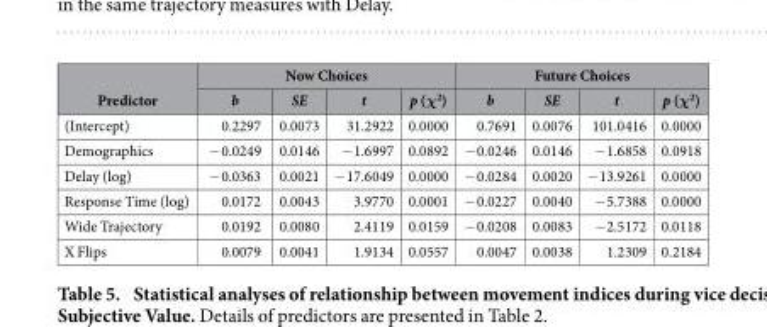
<table><thead><tr><td rowspan="2">Predictor</td><td colspan="4">Now Choices</td><td colspan="4">Future Choices</td></tr><tr><td>b</td><td>SE</td><td>t</td><td>p (χ<sup>2</sup>)</td><td>b</td><td>SE</td><td>t</td><td>p (χ<sup>2</sup>)</td></tr></thead><tbody><tr><td>(Intercept)</td><td>0.2297</td><td>0.0073</td><td>31.2922</td><td>0.0000</td><td>0.7691</td><td>0.0076</td><td>101.0416</td><td>0.0000</td></tr><tr><td>Demographics</td><td>− 0.0249</td><td>0.0146</td><td>− 1.6997</td><td>0.0892</td><td>− 0.0246</td><td>0.0146</td><td>− 1.6858</td><td>0.0918</td></tr><tr><td>Delay (log)</td><td>− 0.0363</td><td>0.0021</td><td>− 17.6049</td><td>0.0000</td><td>− 0.0284</td><td>0.0020</td><td>− 13.9261</td><td>0.0000</td></tr><tr><td>Response Time (log)</td><td>0.0172</td><td>0.0043</td><td>3.9770</td><td>0.0001</td><td>− 0.0227</td><td>0.0040</td><td>− 5.7388</td><td>0.0000</td></tr><tr><td>Wide Trajectory</td><td>0.0192</td><td>0.0080</td><td>2.4119</td><td>0.0159</td><td>− 0.0208</td><td>0.0083</td><td>− 2.5172</td><td>0.0118</td></tr><tr><td>X Flips</td><td>0.0079</td><td>0.0041</td><td>1.9134</td><td>0.0557</td><td>0.0047</td><td>0.0038</td><td>1.2309</td><td>0.2184</td></tr></tbody></table>